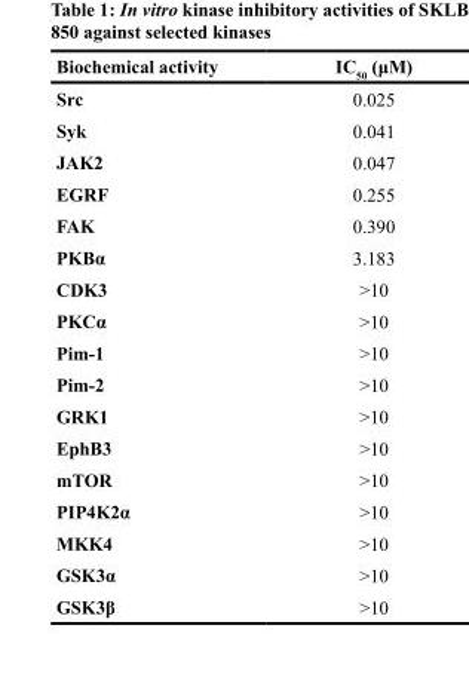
<table><thead><tr><td>Biochemical activity</td><td>IC<sub>50</sub> (μM)</td></tr></thead><tbody><tr><td>Src</td><td>0.025</td></tr><tr><td>Syk</td><td>0.041</td></tr><tr><td>JAK2</td><td>0.047</td></tr><tr><td>EGRF</td><td>0.255</td></tr><tr><td>FAK</td><td>0.390</td></tr><tr><td>PKBα</td><td>3.183</td></tr><tr><td>CDK3</td><td>&gt;10</td></tr><tr><td>PKCα</td><td>&gt;10</td></tr><tr><td>Pim-1</td><td>&gt;10</td></tr><tr><td>Pim-2</td><td>&gt;10</td></tr><tr><td>GRK1</td><td>&gt;10</td></tr><tr><td>EphB3</td><td>&gt;10</td></tr><tr><td>mTOR</td><td>&gt;10</td></tr><tr><td>PIP4K2α</td><td>&gt;10</td></tr><tr><td>MKK4</td><td>&gt;10</td></tr><tr><td>GSK3α</td><td>&gt;10</td></tr><tr><td>GSK3β</td><td>&gt;10</td></tr></tbody></table>